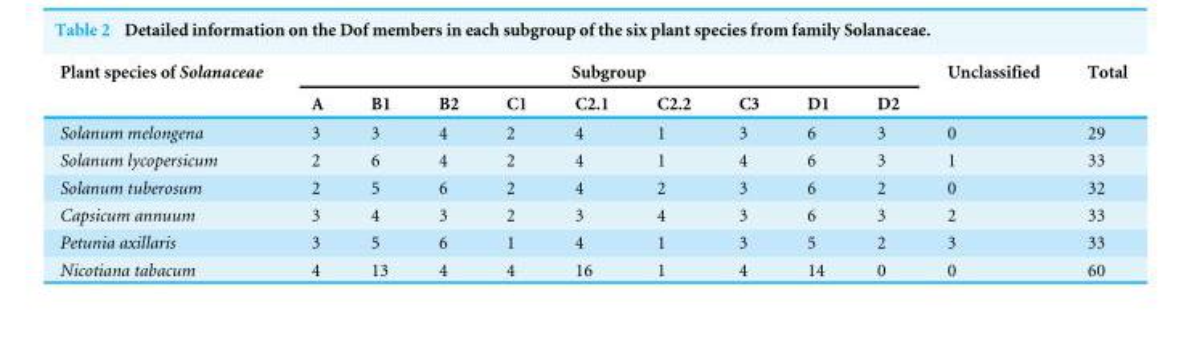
<table><thead><tr><td rowspan="2">Plant species of Solanaceae</td><td colspan="9">Subgroup</td><td rowspan="2">Unclassified</td><td rowspan="2">Total</td></tr><tr><td>A</td><td>B1</td><td>B2</td><td>C1</td><td>C2.1</td><td>C2.2</td><td>C3</td><td>D1</td><td>D2</td></tr></thead><tbody><tr><td>Solanum melongena</td><td>3</td><td>3</td><td>4</td><td>2</td><td>4</td><td>1</td><td>3</td><td>6</td><td>3</td><td>0</td><td>29</td></tr><tr><td>Solanum lycopersicum</td><td>2</td><td>6</td><td>4</td><td>2</td><td>4</td><td>1</td><td>4</td><td>6</td><td>3</td><td>1</td><td>33</td></tr><tr><td>Solanum tuberosum</td><td>2</td><td>5</td><td>6</td><td>2</td><td>4</td><td>2</td><td>3</td><td>6</td><td>2</td><td>0</td><td>32</td></tr><tr><td>Capsicum annuum</td><td>3</td><td>4</td><td>3</td><td>2</td><td>3</td><td>4</td><td>3</td><td>6</td><td>3</td><td>2</td><td>33</td></tr><tr><td>Petunia axillaris</td><td>3</td><td>5</td><td>6</td><td>1</td><td>4</td><td>1</td><td>3</td><td>5</td><td>2</td><td>3</td><td>33</td></tr><tr><td>Nicotiana tabacum</td><td>4</td><td>13</td><td>4</td><td>4</td><td>16</td><td>1</td><td>4</td><td>14</td><td>0</td><td>0</td><td>60</td></tr></tbody></table>